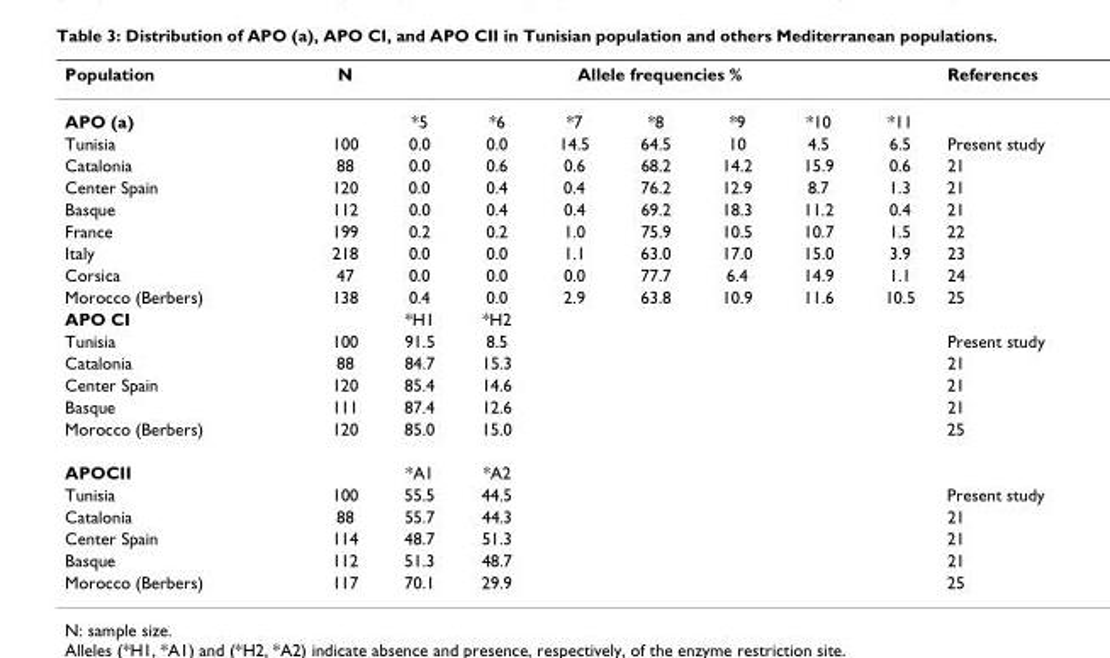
<table><thead><tr><td rowspan="2">Population APO (a)</td><td rowspan="2">N</td><td colspan="7">Allele frequencies %</td><td rowspan="2">References</td></tr><tr><td>*5</td><td>*6</td><td>*7</td><td>*8</td><td>*9</td><td>*10</td><td>*11</td></tr></thead><tbody><tr><td>Tunisia</td><td>100</td><td>0.0</td><td>0.0</td><td>14.5</td><td>64.5</td><td>10</td><td>4.5</td><td>6.5</td><td>Present study</td></tr><tr><td>Catalonia</td><td>88</td><td>0.0</td><td>0.6</td><td>0.6</td><td>68.2</td><td>14.2</td><td>15.9</td><td>0.6</td><td>21</td></tr><tr><td>Center Spain</td><td>120</td><td>0.0</td><td>0.4</td><td>0.4</td><td>76.2</td><td>12.9</td><td>8.7</td><td>1.3</td><td>21</td></tr><tr><td>Basque</td><td>112</td><td>0.0</td><td>0.4</td><td>0.4</td><td>69.2</td><td>18.3</td><td>11.2</td><td>0.4</td><td>21</td></tr><tr><td>France</td><td>199</td><td>0.2</td><td>0.2</td><td>1.0</td><td>75.9</td><td>10.5</td><td>10.7</td><td>1.5</td><td>22</td></tr><tr><td>Italy</td><td>218</td><td>0.0</td><td>0.0</td><td>1.1</td><td>63.0</td><td>17.0</td><td>15.0</td><td>3.9</td><td>23</td></tr><tr><td>Corsica</td><td>47</td><td>0.0</td><td>0.0</td><td>0.0</td><td>77.7</td><td>6.4</td><td>14.9</td><td>1.1</td><td>24</td></tr><tr><td>Morocco (Berbers)</td><td>138</td><td>0.4</td><td>0.0</td><td>2.9</td><td>63.8</td><td>10.9</td><td>11.6</td><td>10.5</td><td>25</td></tr><tr><td>APO CI</td><td></td><td>*H1</td><td>*H2</td><td></td><td></td><td></td><td></td><td></td><td></td></tr><tr><td>Tunisia</td><td>100</td><td>91.5</td><td>8.5</td><td></td><td></td><td></td><td></td><td></td><td>Present study</td></tr><tr><td>Catalonia</td><td>88</td><td>84.7</td><td>15.3</td><td></td><td></td><td></td><td></td><td></td><td>21</td></tr><tr><td>Center Spain</td><td>120</td><td>85.4</td><td>14.6</td><td></td><td></td><td></td><td></td><td></td><td>21</td></tr><tr><td>Basque</td><td>111</td><td>87.4</td><td>12.6</td><td></td><td></td><td></td><td></td><td></td><td>21</td></tr><tr><td>Morocco (Berbers)</td><td>120</td><td>85.0</td><td>15.0</td><td></td><td></td><td></td><td></td><td></td><td>25</td></tr><tr><td>APOCII</td><td></td><td>*A1</td><td>*A2</td><td></td><td></td><td></td><td></td><td></td><td></td></tr><tr><td>Tunisia</td><td>100</td><td>55.5</td><td>44.5</td><td></td><td></td><td></td><td></td><td></td><td>Present study</td></tr><tr><td>Catalonia</td><td>88</td><td>55.7</td><td>44.3</td><td></td><td></td><td></td><td></td><td></td><td>21</td></tr><tr><td>Center Spain</td><td>114</td><td>48.7</td><td>51.3</td><td></td><td></td><td></td><td></td><td></td><td>21</td></tr><tr><td>Basque</td><td>112</td><td>51.3</td><td>48.7</td><td></td><td></td><td></td><td></td><td></td><td>21</td></tr><tr><td>Morocco (Berbers)</td><td>117</td><td>70.1</td><td>29.9</td><td></td><td></td><td></td><td></td><td></td><td>25</td></tr></tbody></table>